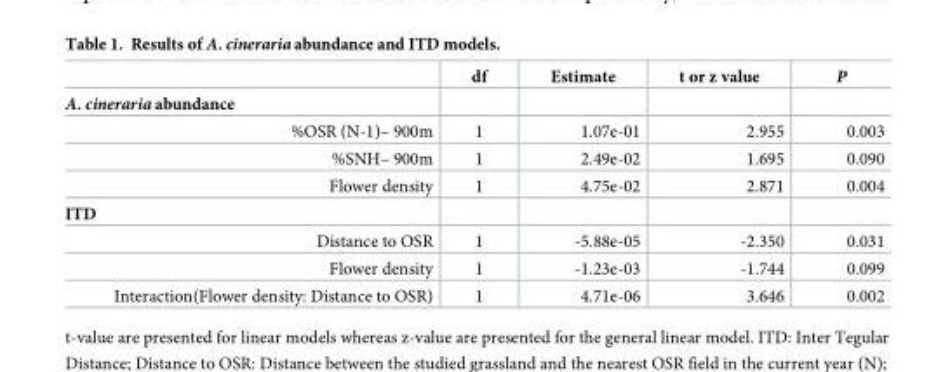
<table><thead><tr><td></td><td>df</td><td>Estimate</td><td>t or z value</td><td>P</td></tr></thead><tbody><tr><td colspan="5">A. cineraria abundance</td></tr><tr><td>%OSR (N-1)– 900m</td><td>1</td><td>1.07e-01</td><td>2.955</td><td>0.003</td></tr><tr><td>%SNH– 900m</td><td>1</td><td>2.49e-02</td><td>1.695</td><td>0.090</td></tr><tr><td>Flower density</td><td>1</td><td>4.75e-02</td><td>2.871</td><td>0.004</td></tr><tr><td colspan="5">ITD</td></tr><tr><td>Distance to OSR</td><td>1</td><td>-5.88e-05</td><td>-2.350</td><td>0.031</td></tr><tr><td>Flower density</td><td>1</td><td>-1.23e-03</td><td>-1.744</td><td>0.099</td></tr><tr><td>Interaction(Flower density: Distance to OSR)</td><td>1</td><td>4.71e-06</td><td>3.646</td><td>0.002</td></tr></tbody></table>